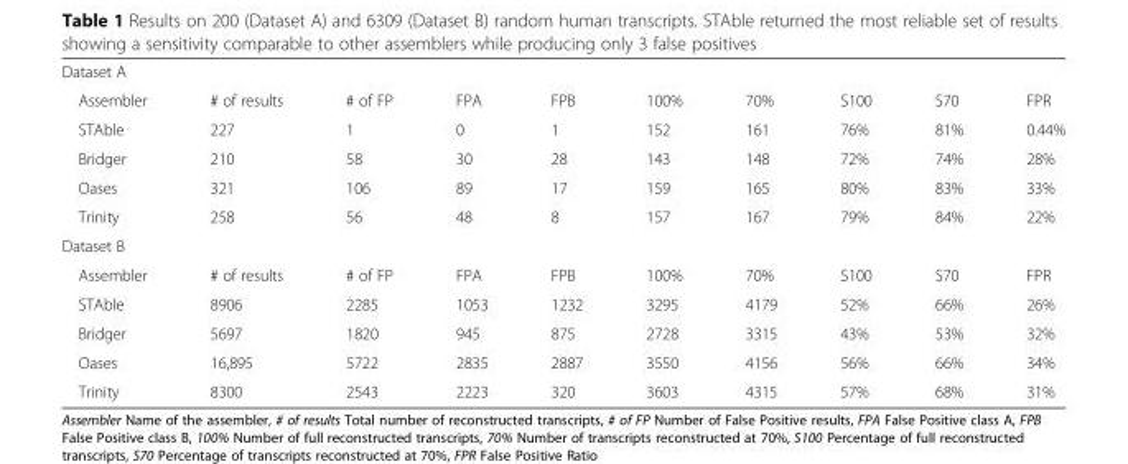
<table><tbody><tr><td colspan="10">Dataset A</td></tr><tr><td>Assembler</td><td># of results</td><td># of FP</td><td>FPA</td><td>FPB</td><td>100%</td><td>70%</td><td>S100</td><td>S70</td><td>FPR</td></tr><tr><td>STAble</td><td>227</td><td>1</td><td>0</td><td>1</td><td>152</td><td>161</td><td>76%</td><td>81%</td><td>0.44%</td></tr><tr><td>Bridger</td><td>210</td><td>58</td><td>30</td><td>28</td><td>143</td><td>148</td><td>72%</td><td>74%</td><td>28%</td></tr><tr><td>Oases</td><td>321</td><td>106</td><td>89</td><td>17</td><td>159</td><td>165</td><td>80%</td><td>83%</td><td>33%</td></tr><tr><td>Trinity</td><td>258</td><td>56</td><td>48</td><td>8</td><td>157</td><td>167</td><td>79%</td><td>84%</td><td>22%</td></tr><tr><td colspan="10">Dataset B</td></tr><tr><td>Assembler</td><td># of results</td><td># of FP</td><td>FPA</td><td>FPB</td><td>100%</td><td>70%</td><td>S100</td><td>S70</td><td>FPR</td></tr><tr><td>STAble</td><td>8906</td><td>2285</td><td>1053</td><td>1232</td><td>3295</td><td>4179</td><td>52%</td><td>66%</td><td>26%</td></tr><tr><td>Bridger</td><td>5697</td><td>1820</td><td>945</td><td>875</td><td>2728</td><td>3315</td><td>43%</td><td>53%</td><td>32%</td></tr><tr><td>Oases</td><td>16,895</td><td>5722</td><td>2835</td><td>2887</td><td>3550</td><td>4156</td><td>56%</td><td>66%</td><td>34%</td></tr><tr><td>Trinity</td><td>8300</td><td>2543</td><td>2223</td><td>320</td><td>3603</td><td>4315</td><td>57%</td><td>68%</td><td>31%</td></tr></tbody></table>